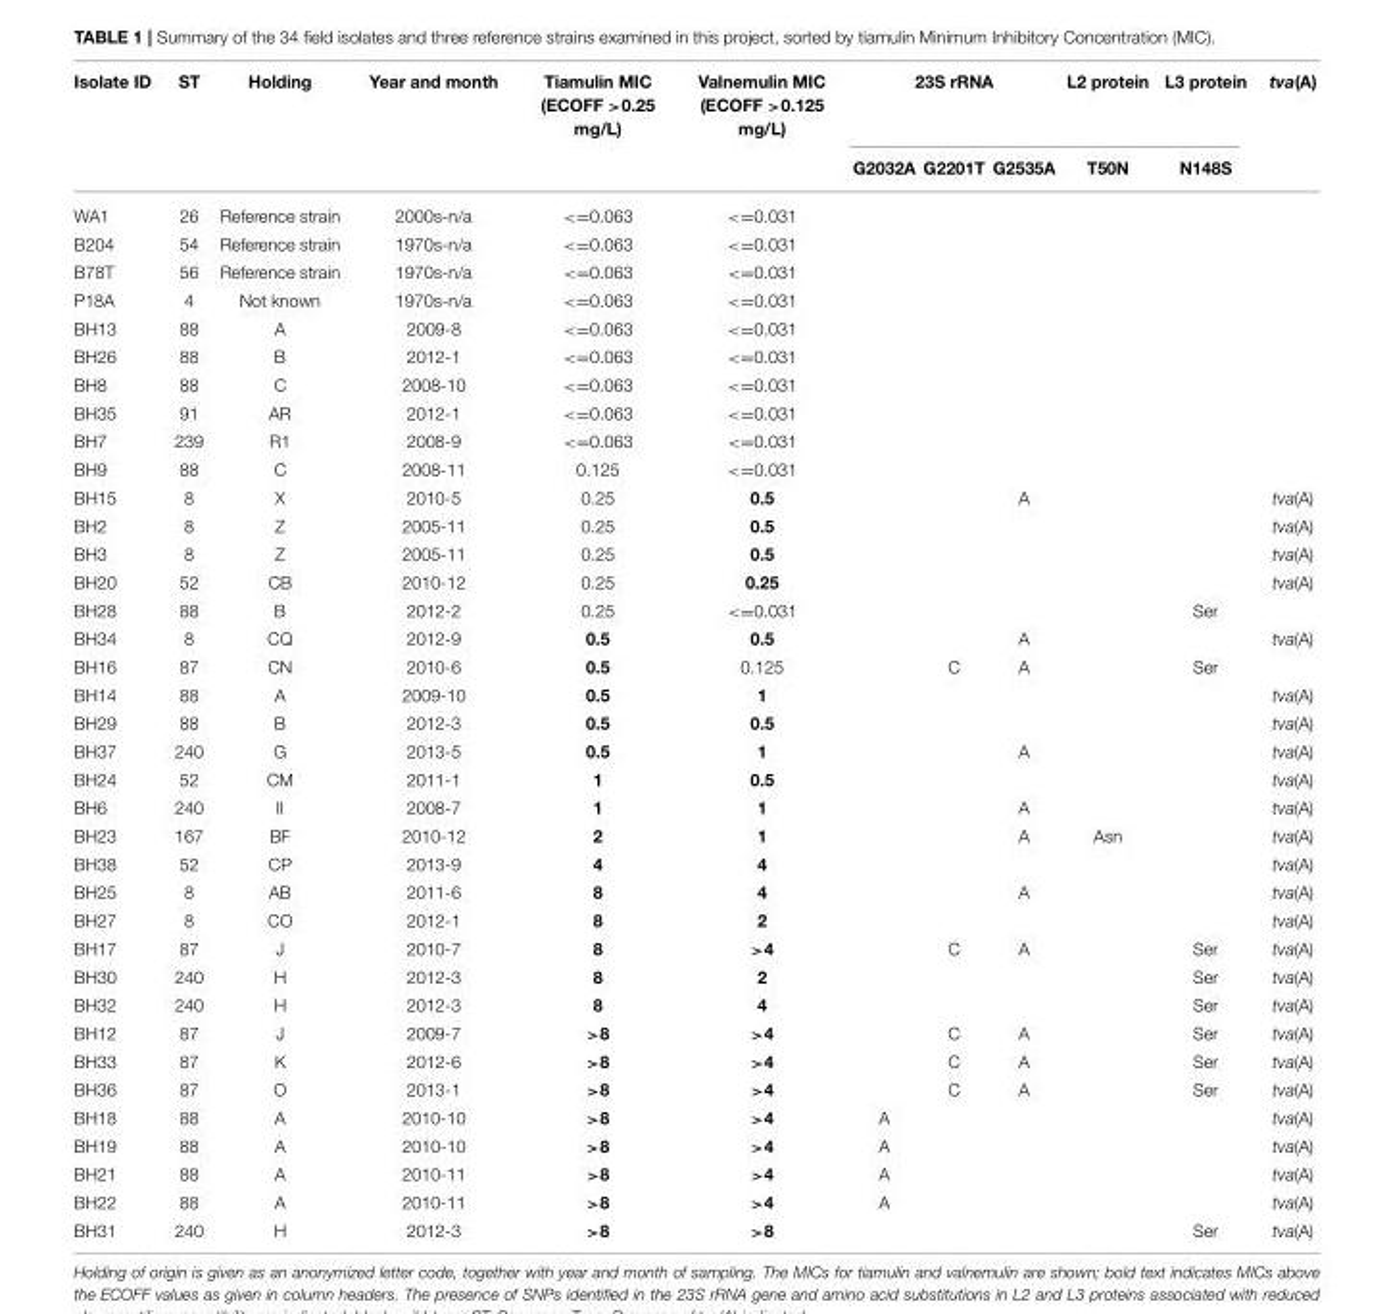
<table><thead><tr><td rowspan="2">Isolate ID</td><td rowspan="2">ST</td><td rowspan="2">Holding</td><td rowspan="2">Year and month</td><td rowspan="2">Tiamulin MIC (ECOFF &gt;0.25 mg/L)</td><td rowspan="2">Valnemulin MIC (ECOFF &gt;0.125 mg/L)</td><td colspan="3">23S rRNA</td><td rowspan="2">L2 protein T50N</td><td rowspan="2">L3 protein N148S</td><td rowspan="2">tva(A)</td></tr><tr><td>G2032A</td><td>G2201T</td><td>G2535A</td></tr></thead><tbody><tr><td>WA1</td><td>26</td><td>Reference strain</td><td>2000s-n/a</td><td>&lt;=0.063</td><td>&lt;=0.031</td><td></td><td></td><td></td><td></td><td></td><td></td></tr><tr><td>B204</td><td>54</td><td>Reference strain</td><td>1970s-n/a</td><td>&lt;=0.063</td><td>&lt;=0.031</td><td></td><td></td><td></td><td></td><td></td><td></td></tr><tr><td>B78T</td><td>56</td><td>Reference strain</td><td>1970s-n/a</td><td>&lt;=0.063</td><td>&lt;=0.031</td><td></td><td></td><td></td><td></td><td></td><td></td></tr><tr><td>P18A</td><td>4</td><td>Not known</td><td>1970s-n/a</td><td>&lt;=0.063</td><td>&lt;=0.031</td><td></td><td></td><td></td><td></td><td></td><td></td></tr><tr><td>BH13</td><td>88</td><td>A</td><td>2009-8</td><td>&lt;=0.063</td><td>&lt;=0.031</td><td></td><td></td><td></td><td></td><td></td><td></td></tr><tr><td>BH26</td><td>88</td><td>B</td><td>2012-1</td><td>&lt;=0.063</td><td>&lt;=0.031</td><td></td><td></td><td></td><td></td><td></td><td></td></tr><tr><td>BH8</td><td>88</td><td>C</td><td>2008-10</td><td>&lt;=0.063</td><td>&lt;=0.031</td><td></td><td></td><td></td><td></td><td></td><td></td></tr><tr><td>BH35</td><td>91</td><td>AR</td><td>2012-1</td><td>&lt;=0.063</td><td>&lt;=0.031</td><td></td><td></td><td></td><td></td><td></td><td></td></tr><tr><td>BH7</td><td>239</td><td>R1</td><td>2008-9</td><td>&lt;=0.063</td><td>&lt;=0.031</td><td></td><td></td><td></td><td></td><td></td><td></td></tr><tr><td>BH9</td><td>88</td><td>C</td><td>2008-11</td><td>0.125</td><td>&lt;=0.031</td><td></td><td></td><td></td><td></td><td></td><td></td></tr><tr><td>BH15</td><td>8</td><td>X</td><td>2010-5</td><td>0.25</td><td>0.5</td><td></td><td></td><td>A</td><td></td><td></td><td>tva(A)</td></tr><tr><td>BH2</td><td>8</td><td>Z</td><td>2005-11</td><td>0.25</td><td>0.5</td><td></td><td></td><td></td><td></td><td></td><td>tva(A)</td></tr><tr><td>BH3</td><td>8</td><td>Z</td><td>2005-11</td><td>0.25</td><td>0.5</td><td></td><td></td><td></td><td></td><td></td><td>tva(A)</td></tr><tr><td>BH20</td><td>52</td><td>CB</td><td>2010-12</td><td>0.25</td><td>0.25</td><td></td><td></td><td></td><td></td><td></td><td>tva(A)</td></tr><tr><td>BH28</td><td>88</td><td>B</td><td>2012-2</td><td>0.25</td><td>&lt;=0.031</td><td></td><td></td><td></td><td></td><td>Ser</td><td></td></tr><tr><td>BH34</td><td>8</td><td>CQ</td><td>2012-9</td><td>0.5</td><td>0.5</td><td></td><td></td><td>A</td><td></td><td></td><td>tva(A)</td></tr><tr><td>BH16</td><td>87</td><td>CN</td><td>2010-6</td><td>0.5</td><td>0.125</td><td></td><td>C</td><td>A</td><td></td><td>Ser</td><td></td></tr><tr><td>BH14</td><td>88</td><td>A</td><td>2009-10</td><td>0.5</td><td>1</td><td></td><td></td><td></td><td></td><td></td><td>tva(A)</td></tr><tr><td>BH29</td><td>88</td><td>B</td><td>2012-3</td><td>0.5</td><td>0.5</td><td></td><td></td><td></td><td></td><td></td><td>tva(A)</td></tr><tr><td>BH37</td><td>240</td><td>G</td><td>2013-5</td><td>0.5</td><td>1</td><td></td><td></td><td>A</td><td></td><td></td><td>tva(A)</td></tr><tr><td>BH24</td><td>52</td><td>CM</td><td>2011-1</td><td>1</td><td>0.5</td><td></td><td></td><td></td><td></td><td></td><td>tva(A)</td></tr><tr><td>BH6</td><td>240</td><td>II</td><td>2008-7</td><td>1</td><td>1</td><td></td><td></td><td>A</td><td></td><td></td><td>tva(A)</td></tr><tr><td>BH23</td><td>167</td><td>BF</td><td>2010-12</td><td>2</td><td>1</td><td></td><td></td><td>A</td><td>Asn</td><td></td><td>tva(A)</td></tr><tr><td>BH38</td><td>52</td><td>CP</td><td>2013-9</td><td>4</td><td>4</td><td></td><td></td><td></td><td></td><td></td><td>tva(A)</td></tr><tr><td>BH25</td><td>8</td><td>AB</td><td>2011-6</td><td>8</td><td>4</td><td></td><td></td><td>A</td><td></td><td></td><td>tva(A)</td></tr><tr><td>BH27</td><td>8</td><td>CO</td><td>2012-1</td><td>8</td><td>2</td><td></td><td></td><td></td><td></td><td></td><td>tva(A)</td></tr><tr><td>BH17</td><td>87</td><td>J</td><td>2010-7</td><td>8</td><td>&gt;4</td><td></td><td>C</td><td>A</td><td></td><td>Ser</td><td>tva(A)</td></tr><tr><td>BH30</td><td>240</td><td>H</td><td>2012-3</td><td>8</td><td>2</td><td></td><td></td><td></td><td></td><td>Ser</td><td>tva(A)</td></tr><tr><td>BH32</td><td>240</td><td>H</td><td>2012-3</td><td>8</td><td>4</td><td></td><td></td><td></td><td></td><td>Ser</td><td>tva(A)</td></tr><tr><td>BH12</td><td>87</td><td>J</td><td>2009-7</td><td>&gt;8</td><td>&gt;4</td><td></td><td>C</td><td>A</td><td></td><td>Ser</td><td>tva(A)</td></tr><tr><td>BH33</td><td>87</td><td>K</td><td>2012-6</td><td>&gt;8</td><td>&gt;4</td><td></td><td>C</td><td>A</td><td></td><td>Ser</td><td>tva(A)</td></tr><tr><td>BH36</td><td>87</td><td>O</td><td>2013-1</td><td>&gt;8</td><td>&gt;4</td><td></td><td>C</td><td>A</td><td></td><td>Ser</td><td>tva(A)</td></tr><tr><td>BH18</td><td>88</td><td>A</td><td>2010-10</td><td>&gt;8</td><td>&gt;4</td><td>A</td><td></td><td></td><td></td><td></td><td>tva(A)</td></tr><tr><td>BH19</td><td>88</td><td>A</td><td>2010-10</td><td>&gt;8</td><td>&gt;4</td><td>A</td><td></td><td></td><td></td><td></td><td>tva(A)</td></tr><tr><td>BH21</td><td>88</td><td>A</td><td>2010-11</td><td>&gt;8</td><td>&gt;4</td><td>A</td><td></td><td></td><td></td><td></td><td>tva(A)</td></tr><tr><td>BH22</td><td>88</td><td>A</td><td>2010-11</td><td>&gt;8</td><td>&gt;4</td><td>A</td><td></td><td></td><td></td><td></td><td>tva(A)</td></tr><tr><td>BH31</td><td>240</td><td>H</td><td>2012-3</td><td>&gt;8</td><td>&gt;8</td><td></td><td></td><td></td><td></td><td>Ser</td><td>tva(A)</td></tr></tbody></table>